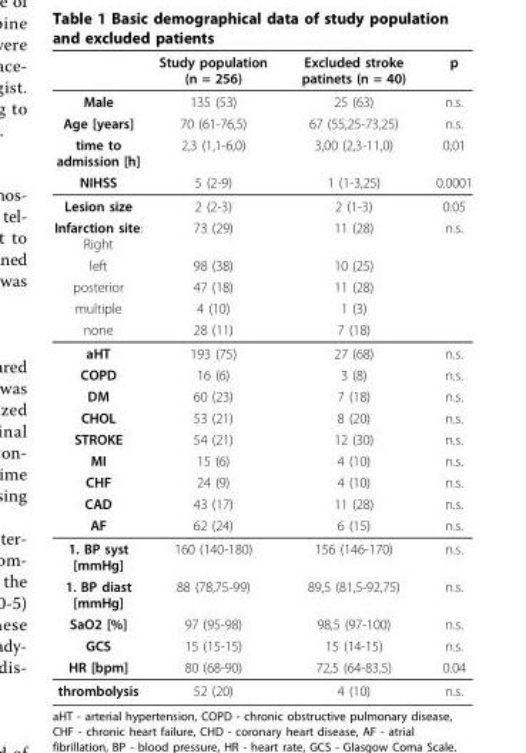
<table><thead><tr><td></td><td>Study population (n = 256)</td><td>Excluded stroke patinets (n = 40)</td><td>p</td></tr></thead><tbody><tr><td>Male</td><td>135 (53)</td><td>25 (63)</td><td>n.s.</td></tr><tr><td>Age [years]</td><td>70 (61-76,5)</td><td>67 (55,25-73,25)</td><td>n.s.</td></tr><tr><td>time to admission [h]</td><td>2,3 (1,1-6,0)</td><td>3,00 (2,3-11,0)</td><td>0,01</td></tr><tr><td>NIHSS</td><td>5 (2-9)</td><td>1 (1-3,25)</td><td>0.0001</td></tr><tr><td>Lesion size</td><td>2 (2-3)</td><td>2 (1-3)</td><td>0.05</td></tr><tr><td>Infarction site: Right</td><td>73 (29)</td><td>11 (28)</td><td>n.s.</td></tr><tr><td>left</td><td>98 (38)</td><td>10 (25)</td><td></td></tr><tr><td>posterior</td><td>47 (18)</td><td>11 (28)</td><td></td></tr><tr><td>multiple</td><td>4 (10)</td><td>1 (3)</td><td></td></tr><tr><td>none</td><td>28 (11)</td><td>7 (18)</td><td></td></tr><tr><td>aHT</td><td>193 (75)</td><td>27 (68)</td><td>n.s.</td></tr><tr><td>COPD</td><td>16 (6)</td><td>3 (8)</td><td>n.s.</td></tr><tr><td>DM</td><td>60 (23)</td><td>7 (18)</td><td>n.s.</td></tr><tr><td>CHOL</td><td>53 (21)</td><td>8 (20)</td><td>n.s.</td></tr><tr><td>STROKE</td><td>54 (21)</td><td>12 (30)</td><td>n.s.</td></tr><tr><td>MI</td><td>15 (6)</td><td>4 (10)</td><td>n.s.</td></tr><tr><td>CHF</td><td>24 (9)</td><td>4 (10)</td><td>n.s.</td></tr><tr><td>CAD</td><td>43 (17)</td><td>11 (28)</td><td>n.s.</td></tr><tr><td>AF</td><td>62 (24)</td><td>6 (15)</td><td>n.s.</td></tr><tr><td>1. BP syst [mmHg]</td><td>160 (140-180)</td><td>156 (146-170)</td><td>n.s.</td></tr><tr><td>1. BP diast [mmHg]</td><td>88 (78,75-99)</td><td>89,5 (81,5-92,75)</td><td>n.s.</td></tr><tr><td>SaO2 [%]</td><td>97 (95-98)</td><td>98,5 (97-100)</td><td>n.s.</td></tr><tr><td>GCS</td><td>15 (15-15)</td><td>15 (14-15)</td><td>n.s.</td></tr><tr><td>HR [bpm]</td><td>80 (68-90)</td><td>72,5 (64-83,5)</td><td>0.04</td></tr><tr><td>thrombolysis</td><td>52 (20)</td><td>4 (10)</td><td>n.s.</td></tr></tbody></table>